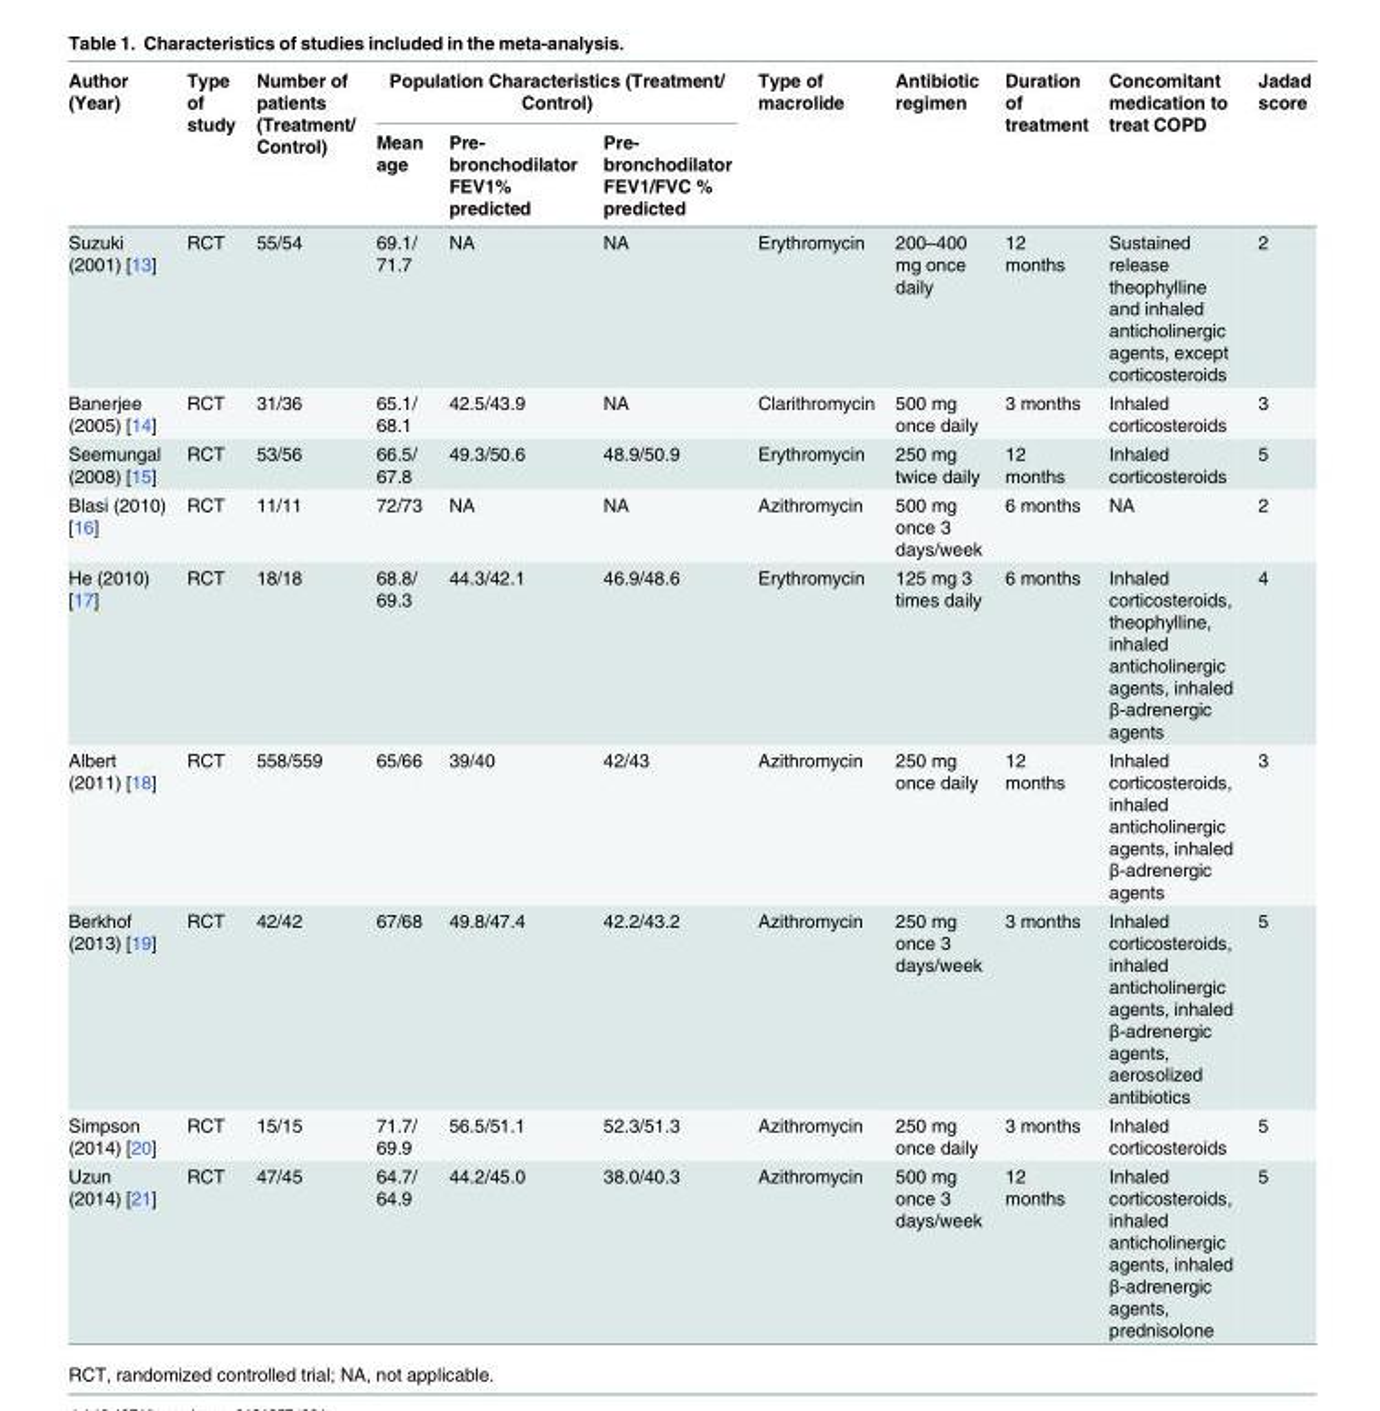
<table><thead><tr><td rowspan="2">Author (Year)</td><td rowspan="2">Type of study</td><td rowspan="2">Number of patients (Treatment/ Control)</td><td colspan="3">Population Characteristics (Treatment/ Control)</td><td rowspan="2">Type of macrolide</td><td rowspan="2">Antibiotic regimen</td><td rowspan="2">Duration of treatment</td><td rowspan="2">Concomitant medication to treat COPD</td><td rowspan="2">Jadad score</td></tr><tr><td>Mean age</td><td>Pre- bronchodilator FEV1% predicted</td><td>Pre- bronchodilator FEV1/FVC % predicted</td></tr></thead><tbody><tr><td>Suzuki (2001) [13]</td><td>RCT</td><td>55/54</td><td>69.1/ 71.7</td><td>NA</td><td>NA</td><td>Erythromycin</td><td>200–400 mg once daily</td><td>12 months</td><td>Sustained release theophylline and inhaled anticholinergic agents, except corticosteroids</td><td>2</td></tr><tr><td>Banerjee (2005) [14]</td><td>RCT</td><td>31/36</td><td>65.1/ 68.1</td><td>42.5/43.9</td><td>NA</td><td>Clarithromycin</td><td>500 mg once daily</td><td>3 months</td><td>Inhaled corticosteroids</td><td>3</td></tr><tr><td>Seemungal (2008) [15]</td><td>RCT</td><td>53/56</td><td>66.5/ 67.8</td><td>49.3/50.6</td><td>48.9/50.9</td><td>Erythromycin</td><td>250 mg twice daily</td><td>12 months</td><td>Inhaled corticosteroids</td><td>5</td></tr><tr><td>Blasi (2010) [16]</td><td>RCT</td><td>11/11</td><td>72/73</td><td>NA</td><td>NA</td><td>Azithromycin</td><td>500 mg once 3 days/week</td><td>6 months</td><td>NA</td><td>2</td></tr><tr><td>He (2010) [17]</td><td>RCT</td><td>18/18</td><td>68.8/ 69.3</td><td>44.3/42.1</td><td>46.9/48.6</td><td>Erythromycin</td><td>125 mg 3 times daily</td><td>6 months</td><td>Inhaled corticosteroids, theophylline, inhaled anticholinergic agents, inhaled β-adrenergic agents</td><td>4</td></tr><tr><td>Albert (2011) [18]</td><td>RCT</td><td>558/559</td><td>65/66</td><td>39/40</td><td>42/43</td><td>Azithromycin</td><td>250 mg once daily</td><td>12 months</td><td>Inhaled corticosteroids, inhaled anticholinergic agents, inhaled β-adrenergic agents</td><td>3</td></tr><tr><td>Berkhof (2013) [19]</td><td>RCT</td><td>42/42</td><td>67/68</td><td>49.8/47.4</td><td>42.2/43.2</td><td>Azithromycin</td><td>250 mg once 3 days/week</td><td>3 months</td><td>Inhaled corticosteroids, inhaled anticholinergic agents, inhaled β-adrenergic agents, aerosolized antibiotics</td><td>5</td></tr><tr><td>Simpson (2014) [20]</td><td>RCT</td><td>15/15</td><td>71.7/ 69.9</td><td>56.5/51.1</td><td>52.3/51.3</td><td>Azithromycin</td><td>250 mg once daily</td><td>3 months</td><td>Inhaled corticosteroids</td><td>5</td></tr><tr><td>Uzun (2014) [21]</td><td>RCT</td><td>47/45</td><td>64.7/ 64.9</td><td>44.2/45.0</td><td>38.0/40.3</td><td>Azithromycin</td><td>500 mg once 3 days/week</td><td>12 months</td><td>Inhaled corticosteroids, inhaled anticholinergic agents, inhaled β-adrenergic agents, prednisolone</td><td>5</td></tr></tbody></table>